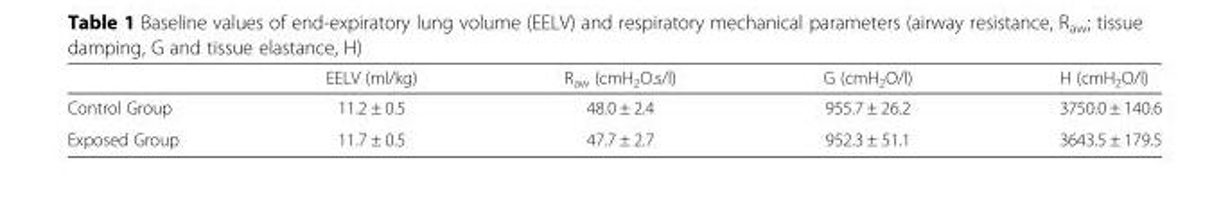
<table><thead><tr><td></td><td>EELV (ml/kg)</td><td>R<sub>aw</sub> (cmH<sub>2</sub>O.s/l)</td><td>G (cmH<sub>2</sub>O/l)</td><td>H (cmH<sub>2</sub>O/l)</td></tr></thead><tbody><tr><td>Control Group</td><td>11.2 ± 0.5</td><td>48.0 ± 2.4</td><td>955.7 ± 26.2</td><td>3750.0 ± 140.6</td></tr><tr><td>Exposed Group</td><td>11.7 ± 0.5</td><td>47.7 ± 2.7</td><td>952.3 ± 51.1</td><td>3643.5 ± 179.5</td></tr></tbody></table>